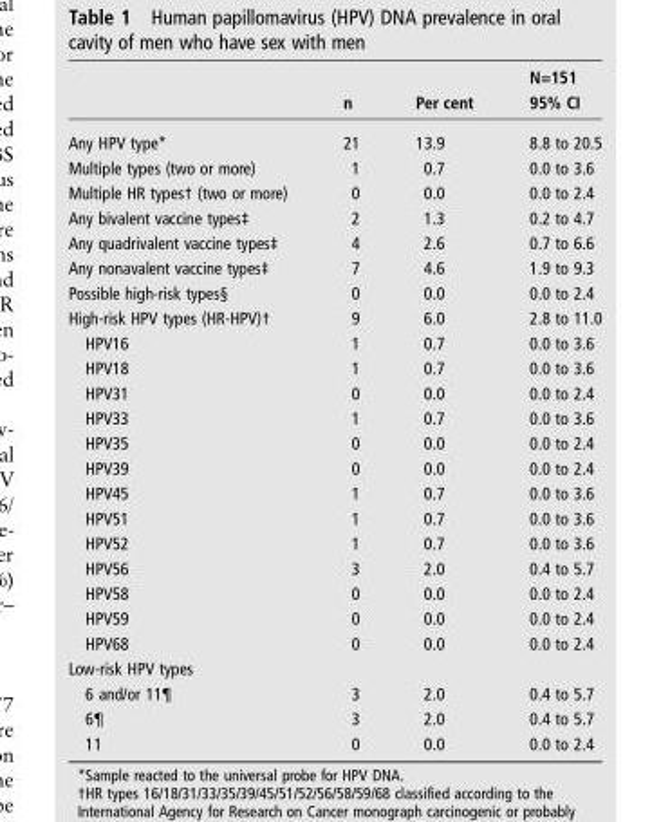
<table><thead><tr><td rowspan="2"></td><td rowspan="2">n</td><td rowspan="2">Per cent</td><td rowspan="2">N=151 95% CI</td></tr><tr></tr></thead><tbody><tr><td>Any HPV type*</td><td>21</td><td>13.9</td><td>8.8 to 20.5</td></tr><tr><td>Multiple types (two or more)</td><td>1</td><td>0.7</td><td>0.0 to 3.6</td></tr><tr><td>Multiple HR types† (two or more)</td><td>0</td><td>0.0</td><td>0.0 to 2.4</td></tr><tr><td>Any bivalent vaccine types‡</td><td>2</td><td>1.3</td><td>0.2 to 4.7</td></tr><tr><td>Any quadrivalent vaccine types‡</td><td>4</td><td>2.6</td><td>0.7 to 6.6</td></tr><tr><td>Any nonavalent vaccine types‡</td><td>7</td><td>4.6</td><td>1.9 to 9.3</td></tr><tr><td>Possible high-risk types§</td><td>0</td><td>0.0</td><td>0.0 to 2.4</td></tr><tr><td>High-risk HPV types (HR-HPV)†</td><td>9</td><td>6.0</td><td>2.8 to 11.0</td></tr><tr><td>HPV16</td><td>1</td><td>0.7</td><td>0.0 to 3.6</td></tr><tr><td>HPV18</td><td>1</td><td>0.7</td><td>0.0 to 3.6</td></tr><tr><td>HPV31</td><td>0</td><td>0.0</td><td>0.0 to 2.4</td></tr><tr><td>HPV33</td><td>1</td><td>0.7</td><td>0.0 to 3.6</td></tr><tr><td>HPV35</td><td>0</td><td>0.0</td><td>0.0 to 2.4</td></tr><tr><td>HPV39</td><td>0</td><td>0.0</td><td>0.0 to 2.4</td></tr><tr><td>HPV45</td><td>1</td><td>0.7</td><td>0.0 to 3.6</td></tr><tr><td>HPV51</td><td>1</td><td>0.7</td><td>0.0 to 3.6</td></tr><tr><td>HPV52</td><td>1</td><td>0.7</td><td>0.0 to 3.6</td></tr><tr><td>HPV56</td><td>3</td><td>2.0</td><td>0.4 to 5.7</td></tr><tr><td>HPV58</td><td>0</td><td>0.0</td><td>0.0 to 2.4</td></tr><tr><td>HPV59</td><td>0</td><td>0.0</td><td>0.0 to 2.4</td></tr><tr><td>HPV68</td><td>0</td><td>0.0</td><td>0.0 to 2.4</td></tr><tr><td colspan="4">Low-risk HPV types</td></tr><tr><td>6 and/or 11¶</td><td>3</td><td>2.0</td><td>0.4 to 5.7</td></tr><tr><td>6¶</td><td>3</td><td>2.0</td><td>0.4 to 5.7</td></tr><tr><td>11</td><td>0</td><td>0.0</td><td>0.0 to 2.4</td></tr></tbody></table>